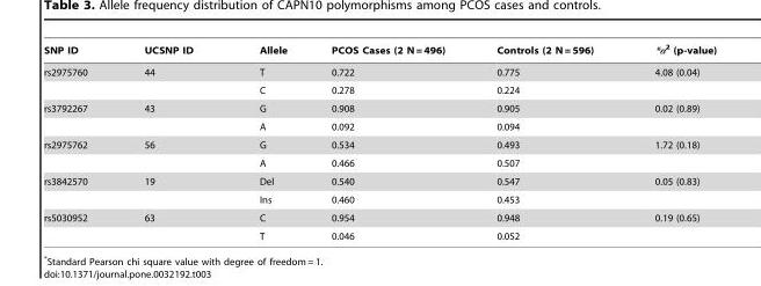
<table><thead><tr><td>SNP ID</td><td>UCSNP ID</td><td>Allele</td><td>PCOS Cases (2 N = 496)</td><td>Controls (2 N = 596)</td><td>*α<sup>2</sup> (p-value)</td></tr></thead><tbody><tr><td rowspan="2">rs2975760</td><td>44</td><td>T</td><td>0.722</td><td>0.775</td><td>4.08 (0.04)</td></tr><tr><td></td><td>C</td><td>0.278</td><td>0.224</td><td></td></tr><tr><td rowspan="2">rs3792267</td><td>43</td><td>G</td><td>0.908</td><td>0.905</td><td>0.02 (0.89)</td></tr><tr><td></td><td>A</td><td>0.092</td><td>0.094</td><td></td></tr><tr><td rowspan="2">rs2975762</td><td>56</td><td>G</td><td>0.534</td><td>0.493</td><td>1.72 (0.18)</td></tr><tr><td></td><td>A</td><td>0.466</td><td>0.507</td><td></td></tr><tr><td rowspan="2">rs3842570</td><td>19</td><td>Del</td><td>0.540</td><td>0.547</td><td>0.05 (0.83)</td></tr><tr><td></td><td>Ins</td><td>0.460</td><td>0.453</td><td></td></tr><tr><td rowspan="2">rs5030952</td><td>63</td><td>C</td><td>0.954</td><td>0.948</td><td>0.19 (0.65)</td></tr><tr><td></td><td>T</td><td>0.046</td><td>0.052</td><td></td></tr></tbody></table>